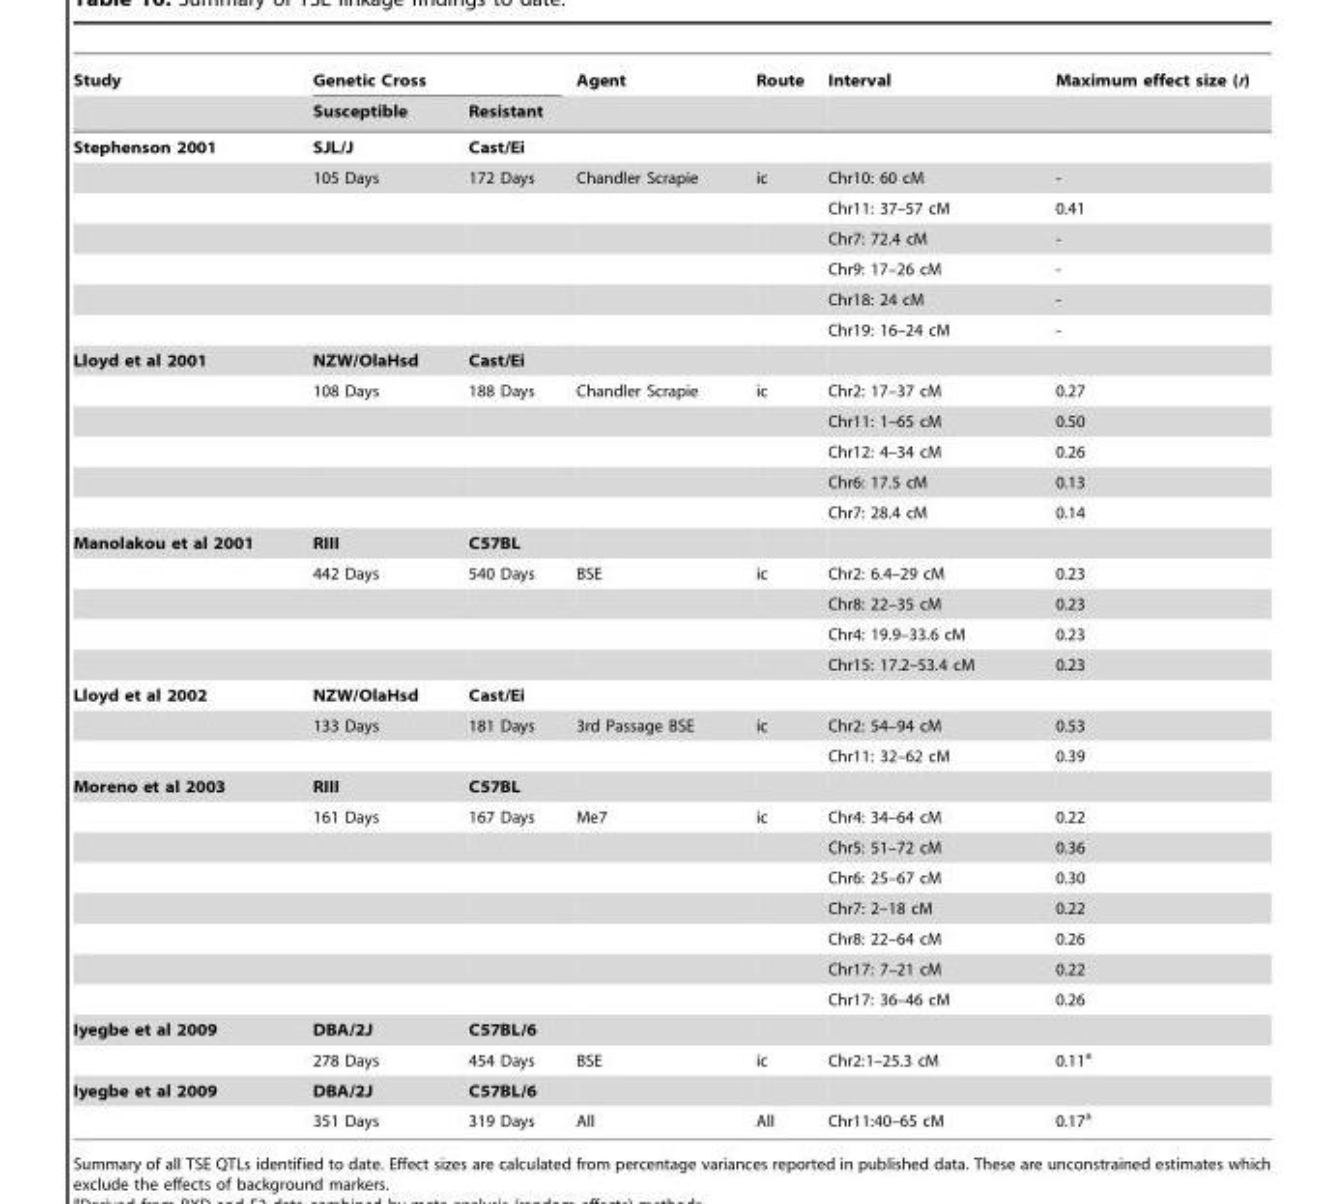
<table><thead><tr><td rowspan="2">Study</td><td colspan="2">Genetic Cross</td><td rowspan="2">Agent</td><td rowspan="2">Route</td><td rowspan="2">Interval</td><td rowspan="2">Maximum effect size (r)</td></tr><tr><td>Susceptible</td><td>Resistant</td></tr></thead><tbody><tr><td rowspan="7">Stephenson 2001</td><td>SJL/J</td><td>Cast/Ei</td><td></td><td></td><td></td><td></td></tr><tr><td>105 Days</td><td>172 Days</td><td>Chandler Scrapie</td><td>ic</td><td>Chr10: 60 cM</td><td>-</td></tr><tr><td></td><td></td><td></td><td></td><td>Chr11: 37–57 cM</td><td>0.41</td></tr><tr><td></td><td></td><td></td><td></td><td>Chr7: 72.4 cM</td><td>-</td></tr><tr><td></td><td></td><td></td><td></td><td>Chr9: 17–26 cM</td><td>-</td></tr><tr><td></td><td></td><td></td><td></td><td>Chr18: 24 cM</td><td>-</td></tr><tr><td></td><td></td><td></td><td></td><td>Chr19: 16–24 cM</td><td>-</td></tr><tr><td rowspan="6">Lloyd et al 2001</td><td>NZW/OlaHsd</td><td>Cast/Ei</td><td></td><td></td><td></td><td></td></tr><tr><td>108 Days</td><td>188 Days</td><td>Chandler Scrapie</td><td>ic</td><td>Chr2: 17–37 cM</td><td>0.27</td></tr><tr><td></td><td></td><td></td><td></td><td>Chr11: 1–65 cM</td><td>0.50</td></tr><tr><td></td><td></td><td></td><td></td><td>Chr12: 4–34 cM</td><td>0.26</td></tr><tr><td></td><td></td><td></td><td></td><td>Chr6: 17.5 cM</td><td>0.13</td></tr><tr><td></td><td></td><td></td><td></td><td>Chr7: 28.4 cM</td><td>0.14</td></tr><tr><td rowspan="5">Manolakou et al 2001</td><td>RIII</td><td>C57BL</td><td></td><td></td><td></td><td></td></tr><tr><td>442 Days</td><td>540 Days</td><td>BSE</td><td>ic</td><td>Chr2: 6.4–29 cM</td><td>0.23</td></tr><tr><td></td><td></td><td></td><td></td><td>Chr8: 22–35 cM</td><td>0.23</td></tr><tr><td></td><td></td><td></td><td></td><td>Chr4: 19.9–33.6 cM</td><td>0.23</td></tr><tr><td></td><td></td><td></td><td></td><td>Chr15: 17.2–53.4 cM</td><td>0.23</td></tr><tr><td rowspan="3">Lloyd et al 2002</td><td>NZW/OlaHsd</td><td>Cast/Ei</td><td></td><td></td><td></td><td></td></tr><tr><td>133 Days</td><td>181 Days</td><td>3rd Passage BSE</td><td>ic</td><td>Chr2: 54–94 cM</td><td>0.53</td></tr><tr><td></td><td></td><td></td><td></td><td>Chr11: 32–62 cM</td><td>0.39</td></tr><tr><td rowspan="8">Moreno et al 2003</td><td>RIII</td><td>C57BL</td><td></td><td></td><td></td><td></td></tr><tr><td>161 Days</td><td>167 Days</td><td>Me7</td><td>ic</td><td>Chr4: 34–64 cM</td><td>0.22</td></tr><tr><td></td><td></td><td></td><td></td><td>Chr5: 51–72 cM</td><td>0.36</td></tr><tr><td></td><td></td><td></td><td></td><td>Chr6: 25–67 cM</td><td>0.30</td></tr><tr><td></td><td></td><td></td><td></td><td>Chr7: 2–18 cM</td><td>0.22</td></tr><tr><td></td><td></td><td></td><td></td><td>Chr8: 22–64 cM</td><td>0.26</td></tr><tr><td></td><td></td><td></td><td></td><td>Chr17: 7–21 cM</td><td>0.22</td></tr><tr><td></td><td></td><td></td><td></td><td>Chr17: 36–46 cM</td><td>0.26</td></tr><tr><td rowspan="2">Iyegbe et al 2009</td><td>DBA/2J</td><td>C57BL/6</td><td></td><td></td><td></td><td></td></tr><tr><td>278 Days</td><td>454 Days</td><td>BSE</td><td>ic</td><td>Chr2:1–25.3 cM</td><td>0.11<sup>a</sup></td></tr><tr><td rowspan="2">Iyegbe et al 2009</td><td>DBA/2J</td><td>C57BL/6</td><td></td><td></td><td></td><td></td></tr><tr><td>351 Days</td><td>319 Days</td><td>All</td><td>All</td><td>Chr11:40–65 cM</td><td>0.17<sup>a</sup></td></tr></tbody></table>